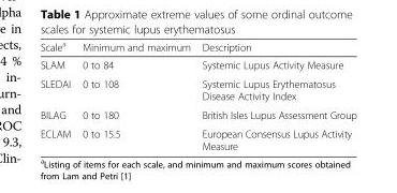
<table><thead><tr><td>Scale<sup>a</sup></td><td>Minimum and maximum</td><td>Description</td></tr></thead><tbody><tr><td>SLAM</td><td>0 to 84</td><td>Systemic Lupus Activity Measure</td></tr><tr><td>SLEDAI</td><td>0 to 108</td><td>Systemic Lupus Erythematosus Disease Activity Index</td></tr><tr><td>BILAG</td><td>0 to 180</td><td>British Isles Lupus Assessment Group</td></tr><tr><td>ECLAM</td><td>0 to 15.5</td><td>European Consensus Lupus Activity Measure</td></tr></tbody></table>